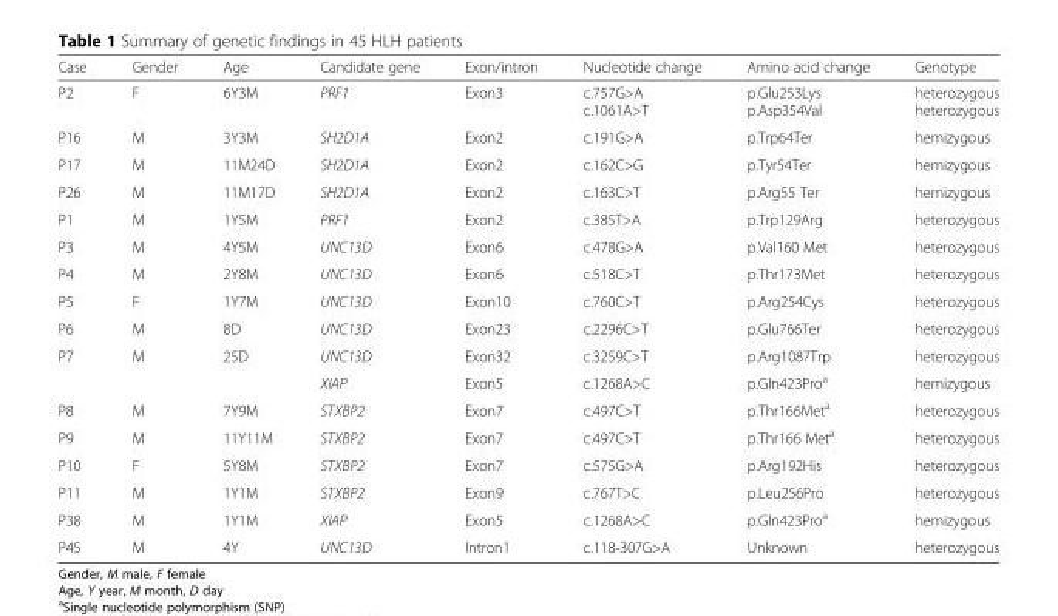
<table><thead><tr><td>Case</td><td>Gender</td><td>Age</td><td>Candidate gene</td><td>Exon/intron</td><td>Nucleotide change</td><td>Amino acid change</td><td>Genotype</td></tr></thead><tbody><tr><td>P2</td><td>F</td><td>6Y3M</td><td>PRF1</td><td>Exon3</td><td>c.757G&gt;A c.1061A&gt;T</td><td>p.Glu253Lys p.Asp354Val</td><td>heterozygous heterozygous</td></tr><tr><td>P16</td><td>M</td><td>3Y3M</td><td>SH2D1A</td><td>Exon2</td><td>c.191G&gt;A</td><td>p.Trp64Ter</td><td>hemizygous</td></tr><tr><td>P17</td><td>M</td><td>11M24D</td><td>SH2D1A</td><td>Exon2</td><td>c.162C&gt;G</td><td>p.Tyr54Ter</td><td>hemizygous</td></tr><tr><td>P26</td><td>M</td><td>11M17D</td><td>SH2D1A</td><td>Exon2</td><td>c.163C&gt;T</td><td>p.Arg55 Ter</td><td>hemizygous</td></tr><tr><td>P1</td><td>M</td><td>1Y5M</td><td>PRF1</td><td>Exon2</td><td>c.385T&gt;A</td><td>p.Trp129Arg</td><td>heterozygous</td></tr><tr><td>P3</td><td>M</td><td>4Y5M</td><td>UNC13D</td><td>Exon6</td><td>c.478G&gt;A</td><td>p.Val160 Met</td><td>heterozygous</td></tr><tr><td>P4</td><td>M</td><td>2Y8M</td><td>UNC13D</td><td>Exon6</td><td>c.518C&gt;T</td><td>p.Thr173Met</td><td>heterozygous</td></tr><tr><td>P5</td><td>F</td><td>1Y7M</td><td>UNC13D</td><td>Exon10</td><td>c.760C&gt;T</td><td>p.Arg254Cys</td><td>heterozygous</td></tr><tr><td>P6</td><td>M</td><td>8D</td><td>UNC13D</td><td>Exon23</td><td>c.2296C&gt;T</td><td>p.Glu766Ter</td><td>heterozygous</td></tr><tr><td rowspan="2">P7</td><td>M</td><td>25D</td><td>UNC13D</td><td>Exon32</td><td>c.3259C&gt;T</td><td>p.Arg1087Trp</td><td>heterozygous</td></tr><tr><td></td><td></td><td>XIAP</td><td>Exon5</td><td>c.1268A&gt;C</td><td>p.Gln423Pro<sup>a</sup></td><td>hemizygous</td></tr><tr><td>P8</td><td>M</td><td>7Y9M</td><td>STXBP2</td><td>Exon7</td><td>c.497C&gt;T</td><td>p.Thr166Met<sup>a</sup></td><td>heterozygous</td></tr><tr><td>P9</td><td>M</td><td>11Y11M</td><td>STXBP2</td><td>Exon7</td><td>c.497C&gt;T</td><td>p.Thr166 Met<sup>a</sup></td><td>heterozygous</td></tr><tr><td>P10</td><td>F</td><td>5Y8M</td><td>STXBP2</td><td>Exon7</td><td>c.575G&gt;A</td><td>p.Arg192His</td><td>heterozygous</td></tr><tr><td>P11</td><td>M</td><td>1Y1M</td><td>STXBP2</td><td>Exon9</td><td>c.767T&gt;C</td><td>p.Leu256Pro</td><td>heterozygous</td></tr><tr><td>P38</td><td>M</td><td>1Y1M</td><td>XIAP</td><td>Exon5</td><td>c.1268A&gt;C</td><td>p.Gln423Pro<sup>a</sup></td><td>hemizygous</td></tr><tr><td>P45</td><td>M</td><td>4Y</td><td>UNC13D</td><td>Intron1</td><td>c.118-307G&gt;A</td><td>Unknown</td><td>heterozygous</td></tr></tbody></table>